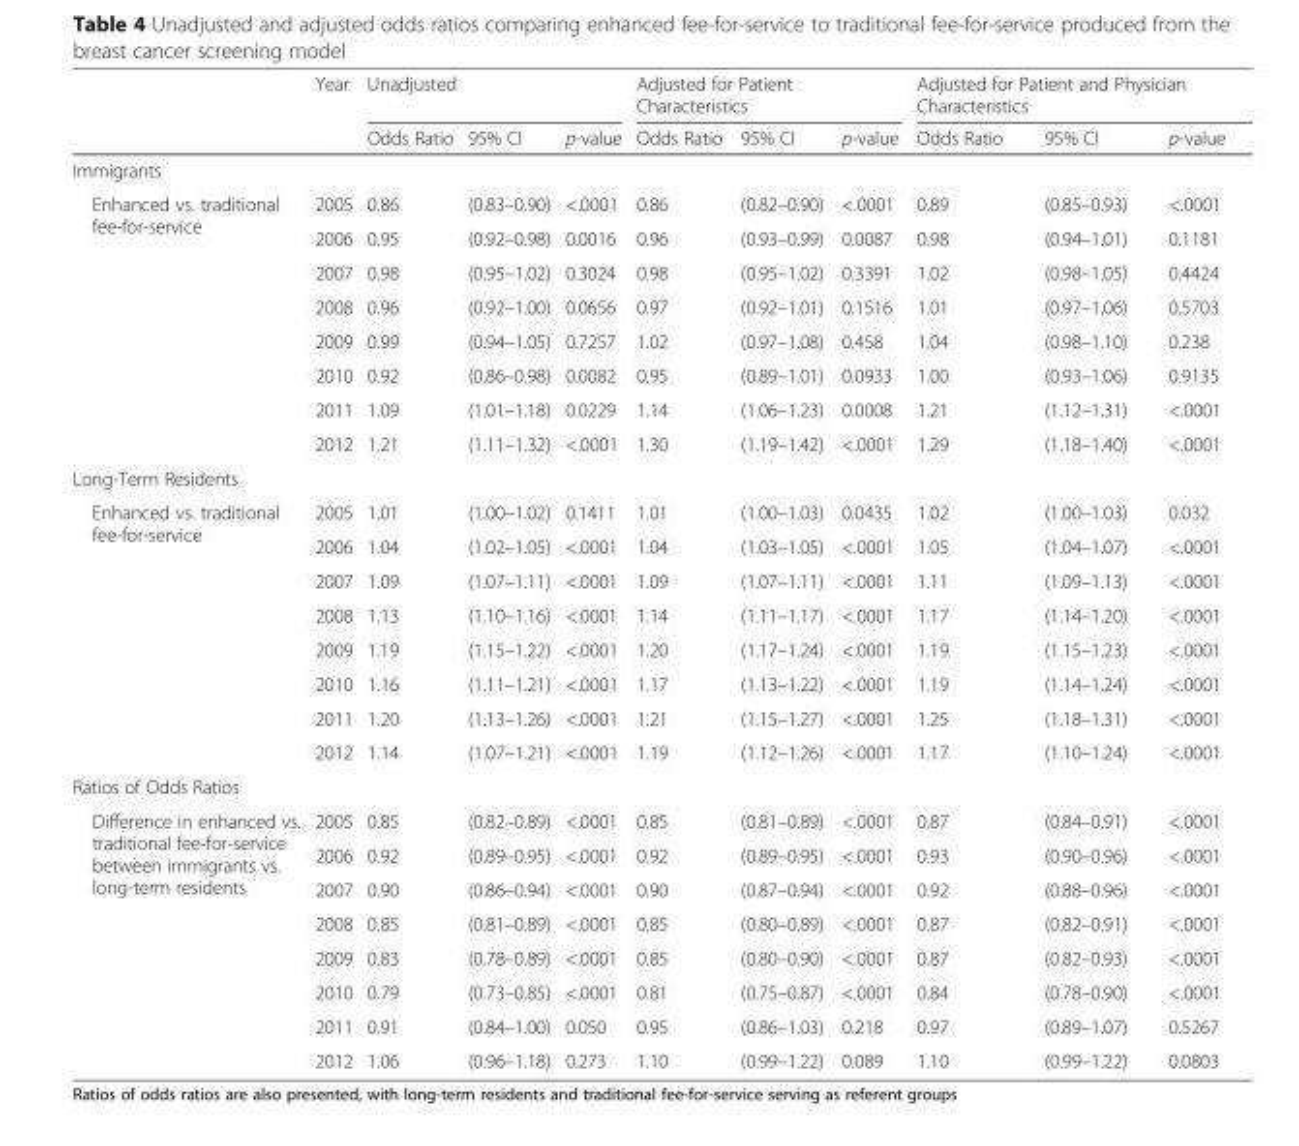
<table><thead><tr><td rowspan="2"></td><td rowspan="2">Year</td><td colspan="3">Unadjusted</td><td colspan="3">Adjusted for Patient Characteristics</td><td colspan="3">Adjusted for Patient and Physician Characteristics</td></tr><tr><td>Odds Ratio</td><td>95% CI</td><td>p-value</td><td>Odds Ratio</td><td>95% CI</td><td>p-value</td><td>Odds Ratio</td><td>95% CI</td><td>p-value</td></tr></thead><tbody><tr><td colspan="11">Immigrants</td></tr><tr><td rowspan="8">Enhanced vs. traditional fee-for-service</td><td>2005</td><td>0.86</td><td>(0.83–0.90)</td><td>&lt;.0001</td><td>0.86</td><td>(0.82–0.90)</td><td>&lt;.0001</td><td>0.89</td><td>(0.85–0.93)</td><td>&lt;.0001</td></tr><tr><td>2006</td><td>0.95</td><td>(0.92–0.98)</td><td>0.0016</td><td>0.96</td><td>(0.93–0.99)</td><td>0.0087</td><td>0.98</td><td>(0.94–1.01)</td><td>0.1181</td></tr><tr><td>2007</td><td>0.98</td><td>(0.95–1.02)</td><td>0.3024</td><td>0.98</td><td>(0.95–1.02)</td><td>0.3391</td><td>1.02</td><td>(0.98–1.05)</td><td>0.4424</td></tr><tr><td>2008</td><td>0.96</td><td>(0.92–1.00)</td><td>0.0656</td><td>0.97</td><td>(0.92–1.01)</td><td>0.1516</td><td>1.01</td><td>(0.97–1.06)</td><td>0.5703</td></tr><tr><td>2009</td><td>0.99</td><td>(0.94–1.05)</td><td>0.7257</td><td>1.02</td><td>(0.97–1.08)</td><td>0.458</td><td>1.04</td><td>(0.98–1.10)</td><td>0.238</td></tr><tr><td>2010</td><td>0.92</td><td>(0.86–0.98)</td><td>0.0082</td><td>0.95</td><td>(0.89–1.01)</td><td>0.0933</td><td>1.00</td><td>(0.93–1.06)</td><td>0.9135</td></tr><tr><td>2011</td><td>1.09</td><td>(1.01–1.18)</td><td>0.0229</td><td>1.14</td><td>(1.06–1.23)</td><td>0.0008</td><td>1.21</td><td>(1.12–1.31)</td><td>&lt;.0001</td></tr><tr><td>2012</td><td>1.21</td><td>(1.11–1.32)</td><td>&lt;.0001</td><td>1.30</td><td>(1.19–1.42)</td><td>&lt;.0001</td><td>1.29</td><td>(1.18–1.40)</td><td>&lt;.0001</td></tr><tr><td colspan="11">Long-Term Residents</td></tr><tr><td rowspan="8">Enhanced vs. traditional fee-for-service</td><td>2005</td><td>1.01</td><td>(1.00–1.02)</td><td>0.1411</td><td>1.01</td><td>(1.00–1.03)</td><td>0.0435</td><td>1.02</td><td>(1.00–1.03)</td><td>0.032</td></tr><tr><td>2006</td><td>1.04</td><td>(1.02–1.05)</td><td>&lt;.0001</td><td>1.04</td><td>(1.03–1.05)</td><td>&lt;.0001</td><td>1.05</td><td>(1.04–1.07)</td><td>&lt;.0001</td></tr><tr><td>2007</td><td>1.09</td><td>(1.07–1.11)</td><td>&lt;.0001</td><td>1.09</td><td>(1.07–1.11)</td><td>&lt;.0001</td><td>1.11</td><td>(1.09–1.13)</td><td>&lt;.0001</td></tr><tr><td>2008</td><td>1.13</td><td>(1.10–1.16)</td><td>&lt;.0001</td><td>1.14</td><td>(1.11–1.17)</td><td>&lt;.0001</td><td>1.17</td><td>(1.14–1.20)</td><td>&lt;.0001</td></tr><tr><td>2009</td><td>1.19</td><td>(1.15–1.22)</td><td>&lt;.0001</td><td>1.20</td><td>(1.17–1.24)</td><td>&lt;.0001</td><td>1.19</td><td>(1.15–1.23)</td><td>&lt;.0001</td></tr><tr><td>2010</td><td>1.16</td><td>(1.11–1.21)</td><td>&lt;.0001</td><td>1.17</td><td>(1.13–1.22)</td><td>&lt;.0001</td><td>1.19</td><td>(1.14–1.24)</td><td>&lt;.0001</td></tr><tr><td>2011</td><td>1.20</td><td>(1.13–1.26)</td><td>&lt;.0001</td><td>1.21</td><td>(1.15–1.27)</td><td>&lt;.0001</td><td>1.25</td><td>(1.18–1.31)</td><td>&lt;.0001</td></tr><tr><td>2012</td><td>1.14</td><td>(1.07–1.21)</td><td>&lt;.0001</td><td>1.19</td><td>(1.12–1.26)</td><td>&lt;.0001</td><td>1.17</td><td>(1.10–1.24)</td><td>&lt;.0001</td></tr><tr><td colspan="11">Ratios of Odds Ratios</td></tr><tr><td rowspan="8">Difference in enhanced vs. traditional fee-for-service between immigrants vs. long-term residents</td><td>2005</td><td>0.85</td><td>(0.82–0.89)</td><td>&lt;.0001</td><td>0.85</td><td>(0.81–0.89)</td><td>&lt;.0001</td><td>0.87</td><td>(0.84–0.91)</td><td>&lt;.0001</td></tr><tr><td>2006</td><td>0.92</td><td>(0.89–0.95)</td><td>&lt;.0001</td><td>0.92</td><td>(0.89–0.95)</td><td>&lt;.0001</td><td>0.93</td><td>(0.90–0.96)</td><td>&lt;.0001</td></tr><tr><td>2007</td><td>0.90</td><td>(0.86–0.94)</td><td>&lt;.0001</td><td>0.90</td><td>(0.87–0.94)</td><td>&lt;.0001</td><td>0.92</td><td>(0.88–0.96)</td><td>&lt;.0001</td></tr><tr><td>2008</td><td>0.85</td><td>(0.81–0.89)</td><td>&lt;.0001</td><td>0.85</td><td>(0.80–0.89)</td><td>&lt;.0001</td><td>0.87</td><td>(0.82–0.91)</td><td>&lt;.0001</td></tr><tr><td>2009</td><td>0.83</td><td>(0.78–0.89)</td><td>&lt;.0001</td><td>0.85</td><td>(0.80–0.90)</td><td>&lt;.0001</td><td>0.87</td><td>(0.82–0.93)</td><td>&lt;.0001</td></tr><tr><td>2010</td><td>0.79</td><td>(0.73–0.85)</td><td>&lt;.0001</td><td>0.81</td><td>(0.75–0.87)</td><td>&lt;.0001</td><td>0.84</td><td>(0.78–0.90)</td><td>&lt;.0001</td></tr><tr><td>2011</td><td>0.91</td><td>(0.84–1.00)</td><td>0.050</td><td>0.95</td><td>(0.86–1.03)</td><td>0.218</td><td>0.97</td><td>(0.89–1.07)</td><td>0.5267</td></tr><tr><td>2012</td><td>1.06</td><td>(0.96–1.18)</td><td>0.273</td><td>1.10</td><td>(0.99–1.22)</td><td>0.089</td><td>1.10</td><td>(0.99–1.22)</td><td>0.0803</td></tr></tbody></table>